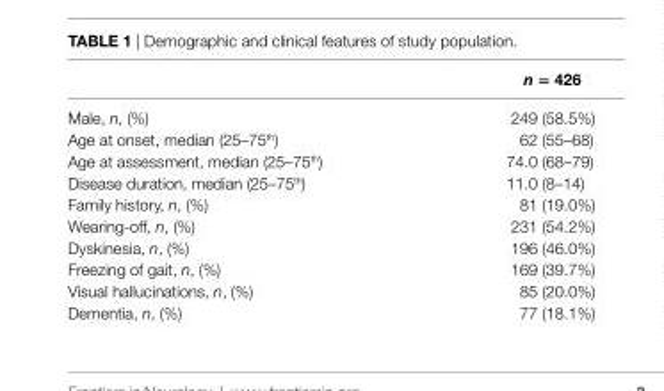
<table><thead><tr><td></td><td>n = 426</td></tr></thead><tbody><tr><td>Male, n, (%)</td><td>249 (58.5%)</td></tr><tr><td>Age at onset, median (25–75<sup>th</sup>)</td><td>62 (55–68)</td></tr><tr><td>Age at assessment, median (25–75<sup>th</sup>)</td><td>74.0 (68–79)</td></tr><tr><td>Disease duration, median (25–75<sup>th</sup>)</td><td>11.0 (8–14)</td></tr><tr><td>Family history, n, (%)</td><td>81 (19.0%)</td></tr><tr><td>Wearing-off, n, (%)</td><td>231 (54.2%)</td></tr><tr><td>Dyskinesia, n, (%)</td><td>196 (46.0%)</td></tr><tr><td>Freezing of gait, n, (%)</td><td>169 (39.7%)</td></tr><tr><td>Visual hallucinations, n, (%)</td><td>85 (20.0%)</td></tr><tr><td>Dementia, n, (%)</td><td>77 (18.1%)</td></tr></tbody></table>